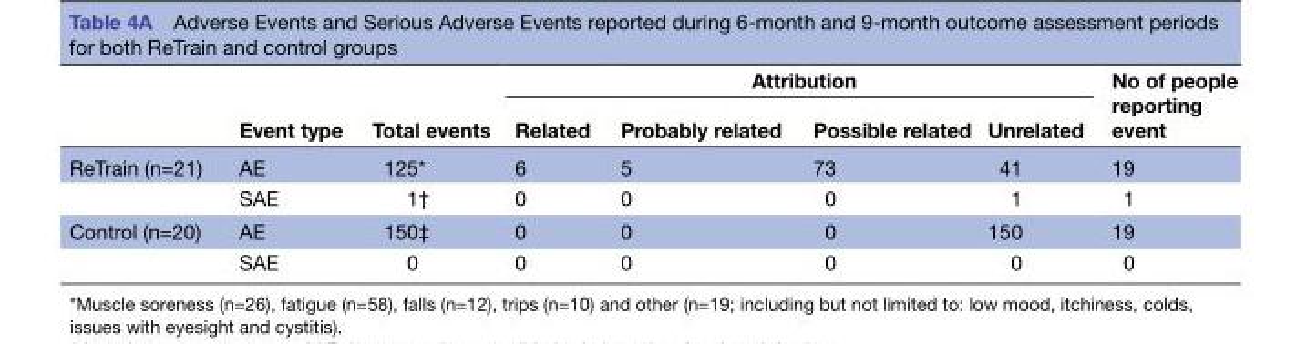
<table><thead><tr><td rowspan="2"></td><td rowspan="2">Event type</td><td rowspan="2">Total events</td><td colspan="4">Attribution</td><td rowspan="2">No of people reporting event</td></tr><tr><td>Related</td><td>Probably related</td><td>Possible related</td><td>Unrelated</td></tr></thead><tbody><tr><td rowspan="2">ReTrain (n=21)</td><td>AE</td><td>125*</td><td>6</td><td>5</td><td>73</td><td>41</td><td>19</td></tr><tr><td>SAE</td><td>1†</td><td>0</td><td>0</td><td>0</td><td>1</td><td>1</td></tr><tr><td rowspan="2">Control (n=20)</td><td>AE</td><td>150‡</td><td>0</td><td>0</td><td>0</td><td>150</td><td>19</td></tr><tr><td>SAE</td><td>0</td><td>0</td><td>0</td><td>0</td><td>0</td><td>0</td></tr></tbody></table>